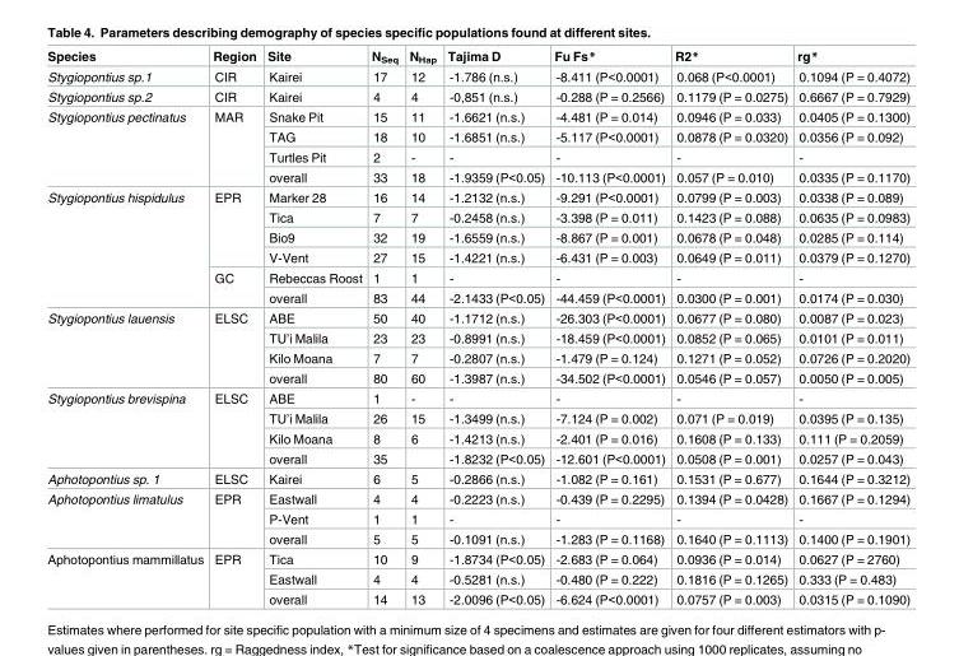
<table><thead><tr><td>Species</td><td>Region</td><td>Site</td><td>N<sub>Seq</sub></td><td>N<sub>Hap</sub></td><td>Tajima D</td><td>Fu Fs*</td><td>R2*</td><td>rg*</td></tr></thead><tbody><tr><td>Stygiopontius sp.1</td><td>CIR</td><td>Kairei</td><td>17</td><td>12</td><td>-1.786 (n.s.)</td><td>-8.411 (P&lt;0.0001)</td><td>0.068 (P&lt;0.0001)</td><td>0.1094 (P = 0.4072)</td></tr><tr><td>Stygiopontius sp.2</td><td>CIR</td><td>Kairei</td><td>4</td><td>4</td><td>-0,851 (n.s.)</td><td>-0.288 (P = 0.2566)</td><td>0.1179 (P = 0.0275)</td><td>0.6667 (P = 0.7929)</td></tr><tr><td rowspan="4">Stygiopontius pectinatus</td><td rowspan="4">MAR</td><td>Snake Pit</td><td>15</td><td>11</td><td>-1.6621 (n.s.)</td><td>-4.481 (P = 0.014)</td><td>0.0946 (P = 0.033)</td><td>0.0405 (P = 0.1300)</td></tr><tr><td>TAG</td><td>18</td><td>10</td><td>-1.6851 (n.s.)</td><td>-5.117 (P&lt;0.0001)</td><td>0.0878 (P = 0.0320)</td><td>0.0356 (P = 0.092)</td></tr><tr><td>Turtles Pit</td><td>2</td><td>-</td><td>-</td><td>-</td><td>-</td><td>-</td></tr><tr><td>overall</td><td>33</td><td>18</td><td>-1.9359 (P&lt;0.05)</td><td>-10.113 (P&lt;0.0001)</td><td>0.057 (P = 0.010)</td><td>0.0335 (P = 0.1170)</td></tr><tr><td rowspan="6">Stygiopontius hispidulus</td><td rowspan="4">EPR</td><td>Marker 28</td><td>16</td><td>14</td><td>-1.2132 (n.s.)</td><td>-9.291 (P&lt;0.0001)</td><td>0.0799 (P = 0.003)</td><td>0.0338 (P = 0.089)</td></tr><tr><td>Tica</td><td>7</td><td>7</td><td>-0.2458 (n.s.)</td><td>-3.398 (P = 0.011)</td><td>0.1423 (P = 0.088)</td><td>0.0635 (P = 0.0983)</td></tr><tr><td>Bio9</td><td>32</td><td>19</td><td>-1.6559 (n.s.)</td><td>-8.867 (P = 0.001)</td><td>0.0678 (P = 0.048)</td><td>0.0285 (P = 0.114)</td></tr><tr><td>V-Vent</td><td>27</td><td>15</td><td>-1.4221 (n.s.)</td><td>-6.431 (P = 0.003)</td><td>0.0649 (P = 0.011)</td><td>0.0379 (P = 0.1270)</td></tr><tr><td rowspan="2">GC</td><td>Rebeccas Roost</td><td>1</td><td>1</td><td>-</td><td>-</td><td>-</td><td>-</td></tr><tr><td>overall</td><td>83</td><td>44</td><td>-2.1433 (P&lt;0.05)</td><td>-44.459 (P&lt;0.0001)</td><td>0.0300 (P = 0.001)</td><td>0.0174 (P = 0.030)</td></tr><tr><td rowspan="4">Stygiopontius lauensis</td><td rowspan="4">ELSC</td><td>ABE</td><td>50</td><td>40</td><td>-1.1712 (n.s.)</td><td>-26.303 (P&lt;0.0001)</td><td>0.0677 (P = 0.080)</td><td>0.0087 (P = 0.023)</td></tr><tr><td>TU’i Malila</td><td>23</td><td>23</td><td>-0.8991 (n.s.)</td><td>-18.459 (P&lt;0.0001)</td><td>0.0852 (P = 0.065)</td><td>0.0101 (P = 0.011)</td></tr><tr><td>Kilo Moana</td><td>7</td><td>7</td><td>-0.2807 (n.s.)</td><td>-1.479 (P = 0.124)</td><td>0.1271 (P = 0.052)</td><td>0.0726 (P = 0.2020)</td></tr><tr><td>overall</td><td>80</td><td>60</td><td>-1.3987 (n.s.)</td><td>-34.502 (P&lt;0.0001)</td><td>0.0546 (P = 0.057)</td><td>0.0050 (P = 0.005)</td></tr><tr><td rowspan="4">Stygiopontius brevispina</td><td rowspan="4">ELSC</td><td>ABE</td><td>1</td><td>-</td><td>-</td><td>-</td><td>-</td><td>-</td></tr><tr><td>TU’i Malila</td><td>26</td><td>15</td><td>-1.3499 (n.s.)</td><td>-7.124 (P = 0.002)</td><td>0.071 (P = 0.019)</td><td>0.0395 (P = 0.135)</td></tr><tr><td>Kilo Moana</td><td>8</td><td>6</td><td>-1.4213 (n.s.)</td><td>-2.401 (P = 0.016)</td><td>0.1608 (P = 0.133)</td><td>0.111 (P = 0.2059)</td></tr><tr><td>overall</td><td>35</td><td></td><td>-1.8232 (P&lt;0.05)</td><td>-12.601 (P&lt;0.0001)</td><td>0.0508 (P = 0.001)</td><td>0.0257 (P = 0.043)</td></tr><tr><td>Aphotopontius sp. 1</td><td>ELSC</td><td>Kairei</td><td>6</td><td>5</td><td>-0.2866 (n.s.)</td><td>-1.082 (P = 0.161)</td><td>0.1531 (P = 0.677)</td><td>0.1644 (P = 0.3212)</td></tr><tr><td rowspan="3">Aphotopontius limatulus</td><td rowspan="3">EPR</td><td>Eastwall</td><td>4</td><td>4</td><td>-0.2223 (n.s.)</td><td>-0.439 (P = 0.2295)</td><td>0.1394 (P = 0.0428)</td><td>0.1667 (P = 0.1294)</td></tr><tr><td>P-Vent</td><td>1</td><td>1</td><td>-</td><td>-</td><td>-</td><td>-</td></tr><tr><td>overall</td><td>5</td><td>5</td><td>-0.1091 (n.s.)</td><td>-1.283 (P = 0.1168)</td><td>0.1640 (P = 0.1113)</td><td>0.1400 (P = 0.1901)</td></tr><tr><td rowspan="3">Aphotopontius mammillatus</td><td rowspan="3">EPR</td><td>Tica</td><td>10</td><td>9</td><td>-1.8734 (P&lt;0.05)</td><td>-2.683 (P = 0.064)</td><td>0.0936 (P = 0.014)</td><td>0.0627 (P = 2760)</td></tr><tr><td>Eastwall</td><td>4</td><td>4</td><td>-0.5281 (n.s.)</td><td>-0.480 (P = 0.222)</td><td>0.1816 (P = 0.1265)</td><td>0.333 (P = 0.483)</td></tr><tr><td>overall</td><td>14</td><td>13</td><td>-2.0096 (P&lt;0.05)</td><td>-6.624 (P&lt;0.0001)</td><td>0.0757 (P = 0.003)</td><td>0.0315 (P = 0.1090)</td></tr></tbody></table>